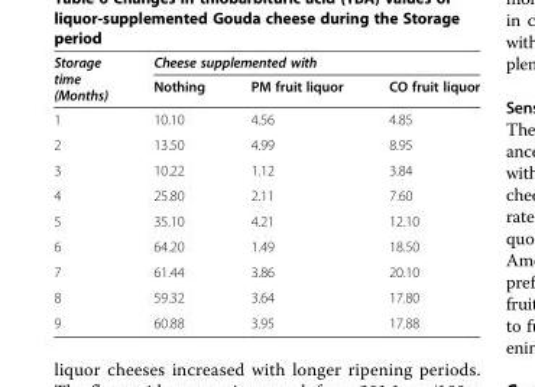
<table><thead><tr><td rowspan="2">Storage time (Months)</td><td colspan="3">Cheese supplemented with</td></tr><tr><td>Nothing</td><td>PM fruit liquor</td><td>CO fruit liquor</td></tr></thead><tbody><tr><td>1</td><td>10.10</td><td>4.56</td><td>4.85</td></tr><tr><td>2</td><td>13.50</td><td>4.99</td><td>8.95</td></tr><tr><td>3</td><td>10.22</td><td>1.12</td><td>3.84</td></tr><tr><td>4</td><td>25.80</td><td>2.11</td><td>7.60</td></tr><tr><td>5</td><td>35.10</td><td>4.21</td><td>12.10</td></tr><tr><td>6</td><td>64.20</td><td>1.49</td><td>18.50</td></tr><tr><td>7</td><td>61.44</td><td>3.86</td><td>20.10</td></tr><tr><td>8</td><td>59.32</td><td>3.64</td><td>17.80</td></tr><tr><td>9</td><td>60.88</td><td>3.95</td><td>17.88</td></tr></tbody></table>